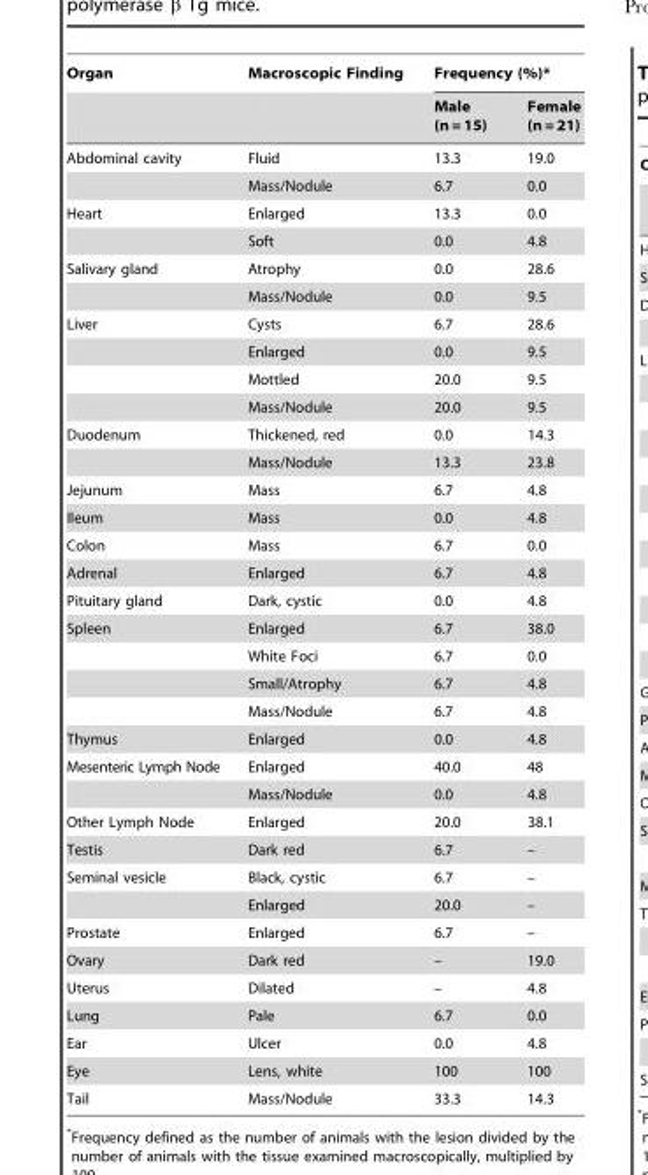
<table><thead><tr><td rowspan="2">Organ</td><td rowspan="2">Macroscopic Finding</td><td colspan="2">Frequency (%)*</td></tr><tr><td>Male (n = 15)</td><td>Female (n = 21)</td></tr></thead><tbody><tr><td rowspan="2">Abdominal cavity</td><td>Fluid</td><td>13.3</td><td>19.0</td></tr><tr><td>Mass/Nodule</td><td>6.7</td><td>0.0</td></tr><tr><td rowspan="2">Heart</td><td>Enlarged</td><td>13.3</td><td>0.0</td></tr><tr><td>Soft</td><td>0.0</td><td>4.8</td></tr><tr><td rowspan="2">Salivary gland</td><td>Atrophy</td><td>0.0</td><td>28.6</td></tr><tr><td>Mass/Nodule</td><td>0.0</td><td>9.5</td></tr><tr><td rowspan="4">Liver</td><td>Cysts</td><td>6.7</td><td>28.6</td></tr><tr><td>Enlarged</td><td>0.0</td><td>9.5</td></tr><tr><td>Mottled</td><td>20.0</td><td>9.5</td></tr><tr><td>Mass/Nodule</td><td>20.0</td><td>9.5</td></tr><tr><td rowspan="2">Duodenum</td><td>Thickened, red</td><td>0.0</td><td>14.3</td></tr><tr><td>Mass/Nodule</td><td>13.3</td><td>23.8</td></tr><tr><td>Jejunum</td><td>Mass</td><td>6.7</td><td>4.8</td></tr><tr><td>Ileum</td><td>Mass</td><td>0.0</td><td>4.8</td></tr><tr><td>Colon</td><td>Mass</td><td>6.7</td><td>0.0</td></tr><tr><td>Adrenal</td><td>Enlarged</td><td>6.7</td><td>4.8</td></tr><tr><td>Pituitary gland</td><td>Dark, cystic</td><td>0.0</td><td>4.8</td></tr><tr><td rowspan="4">Spleen</td><td>Enlarged</td><td>6.7</td><td>38.0</td></tr><tr><td>White Foci</td><td>6.7</td><td>0.0</td></tr><tr><td>Small/Atrophy</td><td>6.7</td><td>4.8</td></tr><tr><td>Mass/Nodule</td><td>6.7</td><td>4.8</td></tr><tr><td>Thymus</td><td>Enlarged</td><td>0.0</td><td>4.8</td></tr><tr><td rowspan="2">Mesenteric Lymph Node</td><td>Enlarged</td><td>40.0</td><td>48</td></tr><tr><td>Mass/Nodule</td><td>0.0</td><td>4.8</td></tr><tr><td>Other Lymph Node</td><td>Enlarged</td><td>20.0</td><td>38.1</td></tr><tr><td>Testis</td><td>Dark red</td><td>6.7</td><td>–</td></tr><tr><td rowspan="2">Seminal vesicle</td><td>Black, cystic</td><td>6.7</td><td>–</td></tr><tr><td>Enlarged</td><td>20.0</td><td>–</td></tr><tr><td>Prostate</td><td>Enlarged</td><td>6.7</td><td>–</td></tr><tr><td>Ovary</td><td>Dark red</td><td>–</td><td>19.0</td></tr><tr><td>Uterus</td><td>Dilated</td><td>–</td><td>4.8</td></tr><tr><td>Lung</td><td>Pale</td><td>6.7</td><td>0.0</td></tr><tr><td>Ear</td><td>Ulcer</td><td>0.0</td><td>4.8</td></tr><tr><td>Eye</td><td>Lens, white</td><td>100</td><td>100</td></tr><tr><td>Tail</td><td>Mass/Nodule</td><td>33.3</td><td>14.3</td></tr></tbody></table>